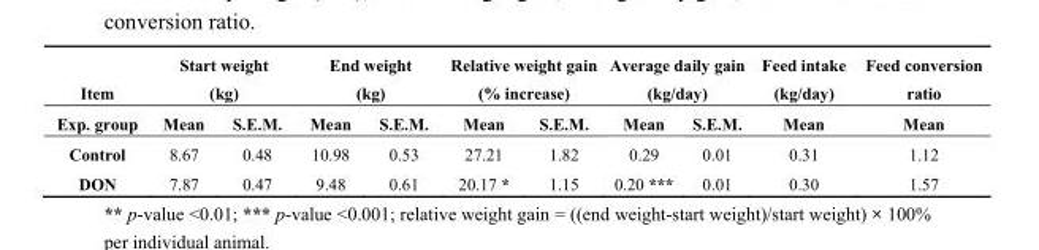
<table><thead><tr><td rowspan="2">Item Exp. group</td><td colspan="2">Start weight (kg)</td><td colspan="2">End weight (kg)</td><td colspan="2">Relative weight gain (% increase)</td><td colspan="2">Average daily gain (kg/day)</td><td rowspan="2">Feed intake (kg/day) Mean</td><td rowspan="2">Feed conversion ratio Mean</td></tr><tr><td>Mean</td><td>S.E.M.</td><td>Mean</td><td>S.E.M.</td><td>Mean</td><td>S.E.M.</td><td>Mean</td><td>S.E.M.</td></tr></thead><tbody><tr><td>Control</td><td>8.67</td><td>0.48</td><td>10.98</td><td>0.53</td><td>27.21</td><td>1.82</td><td>0.29</td><td>0.01</td><td>0.31</td><td>1.12</td></tr><tr><td>DON</td><td>7.87</td><td>0.47</td><td>9.48</td><td>0.61</td><td>20.17 *</td><td>1.15</td><td>0.20 ***</td><td>0.01</td><td>0.30</td><td>1.57</td></tr></tbody></table>